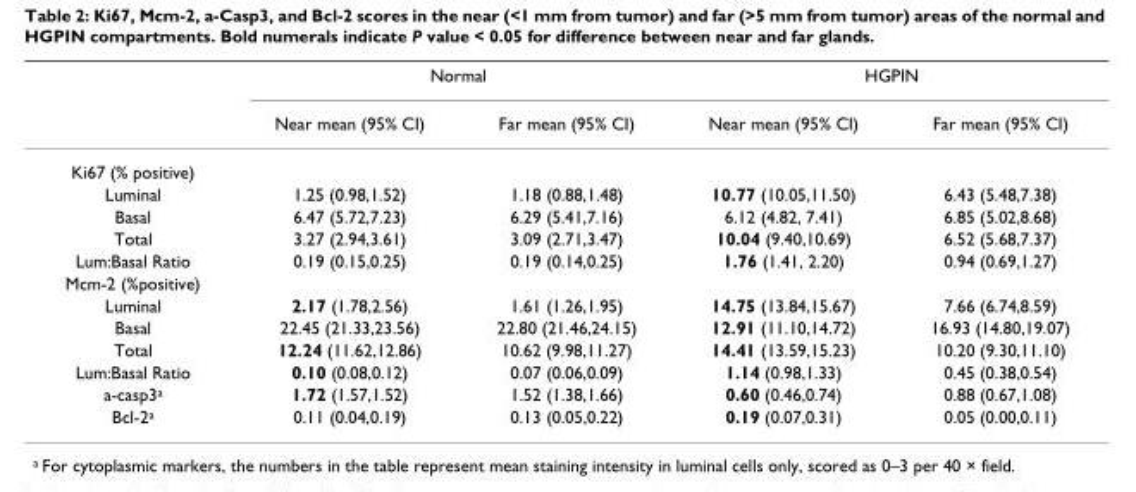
<table><thead><tr><td rowspan="2"></td><td colspan="2">Normal</td><td colspan="2">HGPIN</td></tr><tr><td>Near mean (95% CI)</td><td>Far mean (95% CI)</td><td>Near mean (95% CI)</td><td>Far mean (95% CI)</td></tr></thead><tbody><tr><td colspan="5">Ki67 (% positive)</td></tr><tr><td>Luminal</td><td>1.25 (0.98,1.52)</td><td>1.18 (0.88,1.48)</td><td>10.77 (10.05,11.50)</td><td>6.43 (5.48,7.38)</td></tr><tr><td>Basal</td><td>6.47 (5.72,7.23)</td><td>6.29 (5.41,7.16)</td><td>6.12 (4.82, 7.41)</td><td>6.85 (5.02,8.68)</td></tr><tr><td>Total</td><td>3.27 (2.94,3.61)</td><td>3.09 (2.71,3.47)</td><td>10.04 (9.40,10.69)</td><td>6.52 (5.68,7.37)</td></tr><tr><td>Lum:Basal Ratio</td><td>0.19 (0.15,0.25)</td><td>0.19 (0.14,0.25)</td><td>1.76 (1.41, 2.20)</td><td>0.94 (0.69,1.27)</td></tr><tr><td colspan="5">Mcm-2 (%positive)</td></tr><tr><td>Luminal</td><td>2.17 (1.78,2.56)</td><td>1.61 (1.26,1.95)</td><td>14.75 (13.84,15.67)</td><td>7.66 (6.74,8.59)</td></tr><tr><td>Basal</td><td>22.45 (21.33,23.56)</td><td>22.80 (21.46,24.15)</td><td>12.91 (11.10,14.72)</td><td>16.93 (14.80,19.07)</td></tr><tr><td>Total</td><td>12.24 (11.62,12.86)</td><td>10.62 (9.98,11.27)</td><td>14.41 (13.59,15.23)</td><td>10.20 (9.30,11.10)</td></tr><tr><td>Lum:Basal Ratio</td><td>0.10 (0.08,0.12)</td><td>0.07 (0.06,0.09)</td><td>1.14 (0.98,1.33)</td><td>0.45 (0.38,0.54)</td></tr><tr><td>a-casp3a</td><td>1.72 (1.57,1.52)</td><td>1.52 (1.38,1.66)</td><td>0.60 (0.46,0.74)</td><td>0.88 (0.67,1.08)</td></tr><tr><td>Bcl-2a</td><td>0.11 (0.04,0.19)</td><td>0.13 (0.05,0.22)</td><td>0.19 (0.07,0.31)</td><td>0.05 (0.00,0.11)</td></tr></tbody></table>